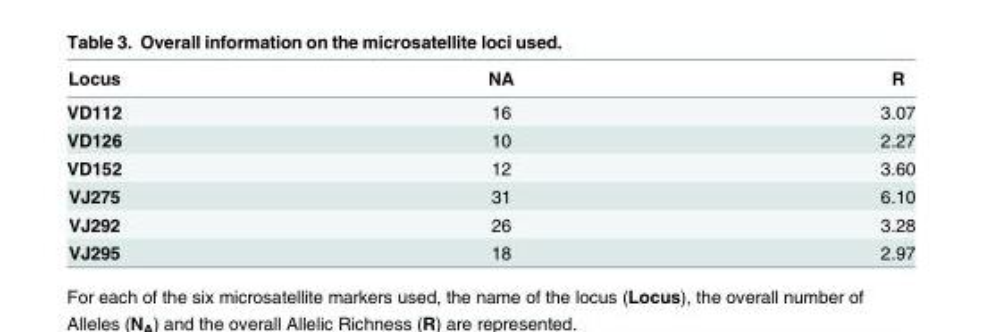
<table><thead><tr><td>Locus</td><td>NA</td><td>R</td></tr></thead><tbody><tr><td>VD112</td><td>16</td><td>3.07</td></tr><tr><td>VD126</td><td>10</td><td>2.27</td></tr><tr><td>VD152</td><td>12</td><td>3.60</td></tr><tr><td>VJ275</td><td>31</td><td>6.10</td></tr><tr><td>VJ292</td><td>26</td><td>3.28</td></tr><tr><td>VJ295</td><td>18</td><td>2.97</td></tr></tbody></table>